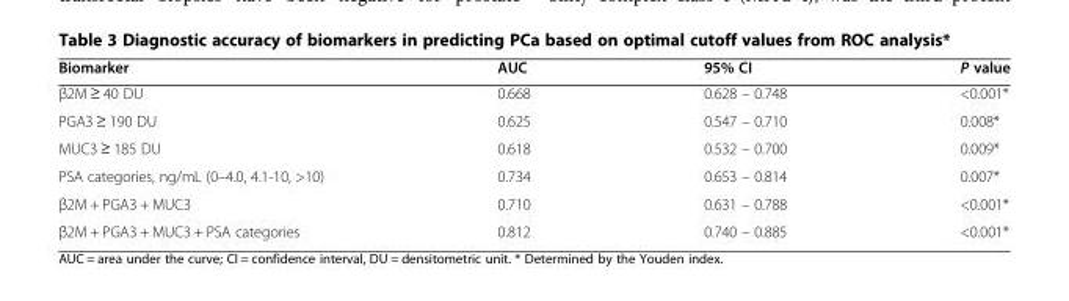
<table><thead><tr><td>Biomarker</td><td>AUC</td><td>95% CI</td><td>P value</td></tr></thead><tbody><tr><td>β2M ≥ 40 DU</td><td>0.668</td><td>0.628 – 0.748</td><td>&lt;0.001*</td></tr><tr><td>PGA3 ≥ 190 DU</td><td>0.625</td><td>0.547 – 0.710</td><td>0.008*</td></tr><tr><td>MUC3 ≥ 185 DU</td><td>0.618</td><td>0.532 – 0.700</td><td>0.009*</td></tr><tr><td>PSA categories, ng/mL (0–4.0, 4.1-10, &gt;10)</td><td>0.734</td><td>0.653 – 0.814</td><td>0.007*</td></tr><tr><td>β2M + PGA3 + MUC3</td><td>0.710</td><td>0.631 – 0.788</td><td>&lt;0.001*</td></tr><tr><td>β2M + PGA3 + MUC3 + PSA categories</td><td>0.812</td><td>0.740 – 0.885</td><td>&lt;0.001*</td></tr></tbody></table>